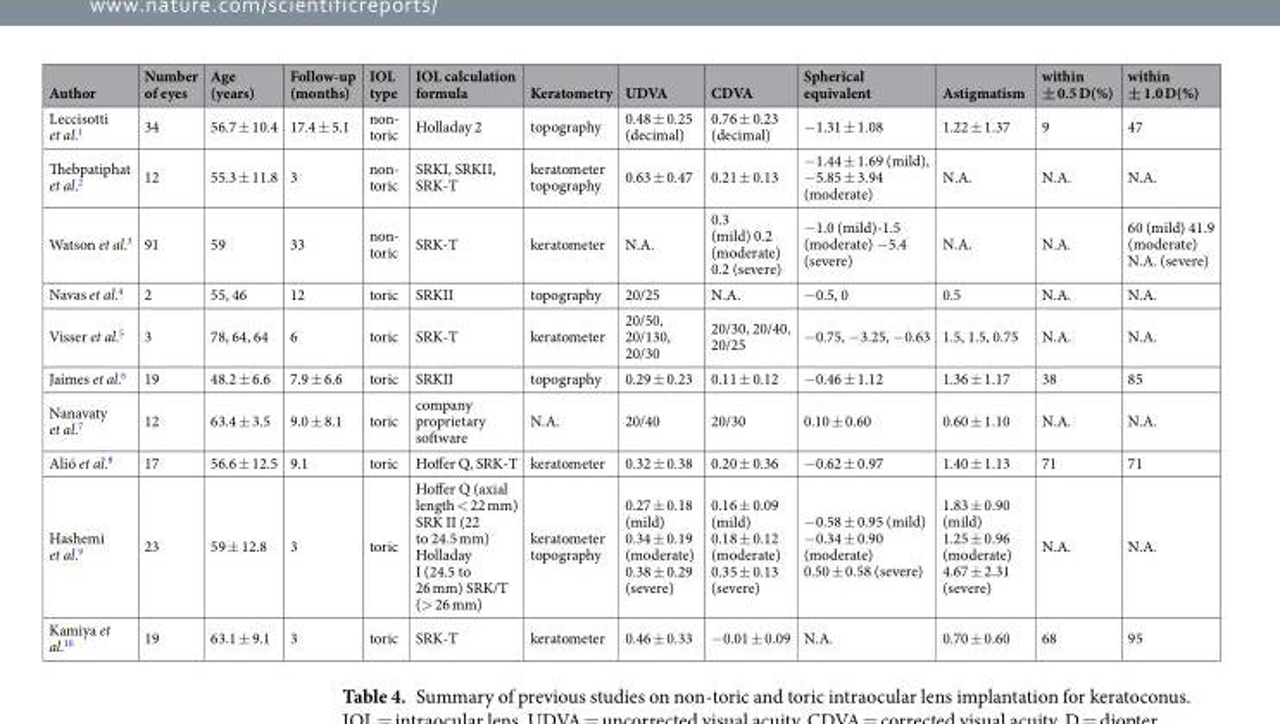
<table><thead><tr><td>Author</td><td>Number of eyes</td><td>Age (years)</td><td>Follow-up (months)</td><td>IOL type</td><td>IOL calculation formula</td><td>Keratometry</td><td>UDVA</td><td>CDVA</td><td>Spherical equivalent</td><td>Astigmatism</td><td>within ± 0.5 D(%)</td><td>within ± 1.0 D(%)</td></tr></thead><tbody><tr><td>Leccisotti et al.<sup>1</sup></td><td>34</td><td>56.7 ± 10.4</td><td>17.4 ± 5.1</td><td>non- toric</td><td>Holladay 2</td><td>topography</td><td>0.48 ± 0.25 (decimal)</td><td>0.76 ± 0.23 (decimal)</td><td>−1.31 ± 1.08</td><td>1.22 ± 1.37</td><td>9</td><td>47</td></tr><tr><td>Thebpatiphat et al.<sup>2</sup></td><td>12</td><td>55.3 ± 11.8</td><td>3</td><td>non- toric</td><td>SRKI, SRKII, SRK-T</td><td>keratometer topography</td><td>0.63 ± 0.47</td><td>0.21 ± 0.13</td><td>−1.44 ± 1.69 (mild), −5.85 ± 3.94 (moderate)</td><td>N.A.</td><td>N.A.</td><td>N.A.</td></tr><tr><td>Watson et al.<sup>3</sup></td><td>91</td><td>59</td><td>33</td><td>non- toric</td><td>SRK-T</td><td>keratometer</td><td>N.A.</td><td>0.3 (mild) 0.2 (moderate) 0.2 (severe)</td><td>−1.0 (mild)-1.5 (moderate) −5.4 (severe)</td><td>N.A.</td><td>N.A.</td><td>60 (mild) 41.9 (moderate) N.A. (severe)</td></tr><tr><td>Navas et al.<sup>4</sup></td><td>2</td><td>55, 46</td><td>12</td><td>toric</td><td>SRKII</td><td>topography</td><td>20/25</td><td>N.A.</td><td>−0.5, 0</td><td>0.5</td><td>N.A.</td><td>N.A.</td></tr><tr><td>Visser et al.<sup>5</sup></td><td>3</td><td>78, 64, 64</td><td>6</td><td>toric</td><td>SRK-T</td><td>keratometer</td><td>20/50, 20/130, 20/30</td><td>20/30, 20/40, 20/25</td><td>−0.75, −3.25, −0.63</td><td>1.5, 1.5, 0.75</td><td>N.A.</td><td>N.A.</td></tr><tr><td>Jaimes et al.<sup>6</sup></td><td>19</td><td>48.2 ± 6.6</td><td>7.9 ± 6.6</td><td>toric</td><td>SRKII</td><td>topography</td><td>0.29 ± 0.23</td><td>0.11 ± 0.12</td><td>−0.46 ± 1.12</td><td>1.36 ± 1.17</td><td>38</td><td>85</td></tr><tr><td>Nanavaty et al.<sup>7</sup></td><td>12</td><td>63.4 ± 3.5</td><td>9.0 ± 8.1</td><td>toric</td><td>company proprietary software</td><td>N.A.</td><td>20/40</td><td>20/30</td><td>0.10 ± 0.60</td><td>0.60 ± 1.10</td><td>N.A.</td><td>N.A.</td></tr><tr><td>Alió et al.<sup>8</sup></td><td>17</td><td>56.6 ± 12.5</td><td>9.1</td><td>toric</td><td>Hoffer Q, SRK-T</td><td>keratometer</td><td>0.32 ± 0.38</td><td>0.20 ± 0.36</td><td>−0.62 ± 0.97</td><td>1.40 ± 1.13</td><td>71</td><td>71</td></tr><tr><td>Hashemi et al.<sup>9</sup></td><td>23</td><td>59 ± 12.8</td><td>3</td><td>toric</td><td>Hoffer Q (axial length &lt; 22 mm) SRK II (22 to 24.5 mm) Holladay I (24.5 to 26 mm) SRK/T (&gt; 26 mm)</td><td>keratometer topography</td><td>0.27 ± 0.18 (mild) 0.34 ± 0.19 (moderate) 0.38 ± 0.29 (severe)</td><td>0.16 ± 0.09 (mild) 0.18 ± 0.12 (moderate) 0.35 ± 0.13 (severe)</td><td>−0.58 ± 0.95 (mild) −0.34 ± 0.90 (moderate) 0.50 ± 0.58 (severe)</td><td>1.83 ± 0.90 (mild) 1.25 ± 0.96 (moderate) 4.67 ± 2.31 (severe)</td><td>N.A.</td><td>N.A.</td></tr><tr><td>Kamiya et al.<sup>10</sup></td><td>19</td><td>63.1 ± 9.1</td><td>3</td><td>toric</td><td>SRK-T</td><td>keratometer</td><td>0.46 ± 0.33</td><td>−0.01 ± 0.09</td><td>N.A.</td><td>0.70 ± 0.60</td><td>68</td><td>95</td></tr></tbody></table>